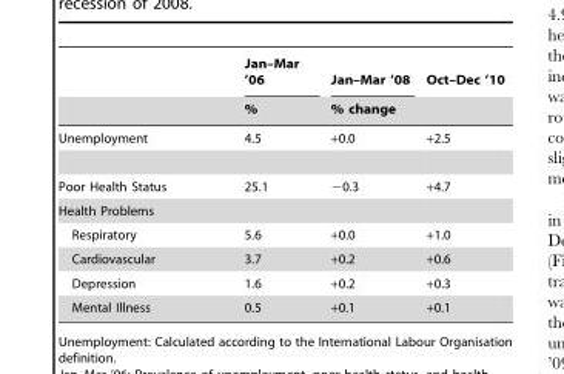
<table><thead><tr><td rowspan="2"></td><td rowspan="2">Jan–Mar ’06 %</td><td>Jan–Mar ’08</td><td>Oct–Dec ’10</td></tr><tr><td colspan="2">% change</td></tr></thead><tbody><tr><td>Unemployment</td><td>4.5</td><td>+0.0</td><td>+2.5</td></tr><tr><td>Poor Health Status</td><td>25.1</td><td>−0.3</td><td>+4.7</td></tr><tr><td colspan="4">Health Problems</td></tr><tr><td>Respiratory</td><td>5.6</td><td>+0.0</td><td>+1.0</td></tr><tr><td>Cardiovascular</td><td>3.7</td><td>+0.2</td><td>+0.6</td></tr><tr><td>Depression</td><td>1.6</td><td>+0.2</td><td>+0.3</td></tr><tr><td>Mental Illness</td><td>0.5</td><td>+0.1</td><td>+0.1</td></tr></tbody></table>